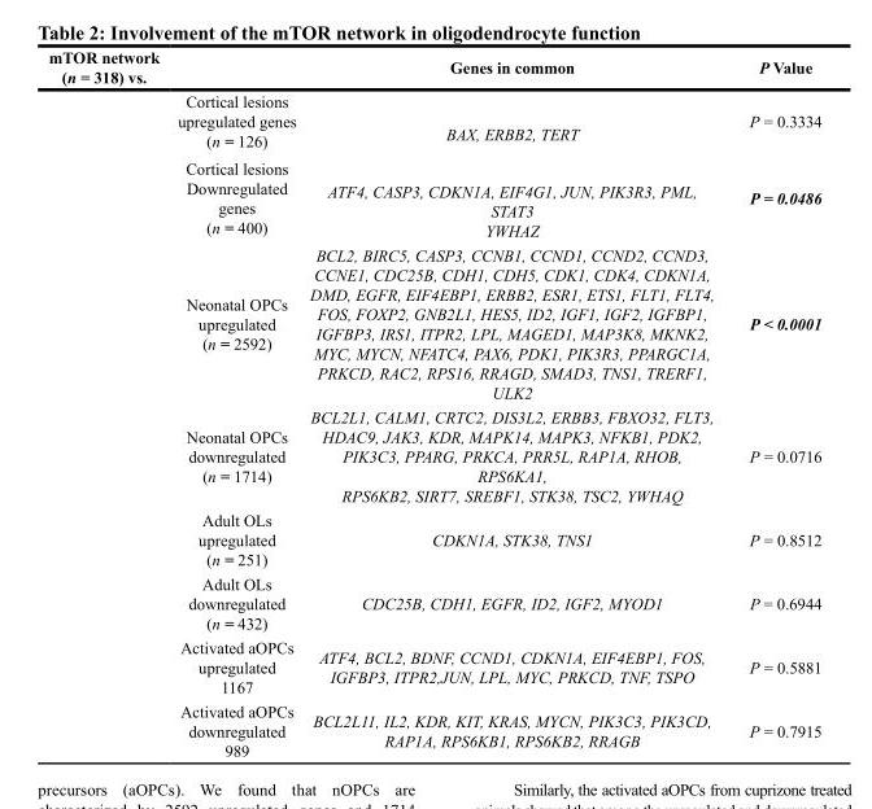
<table><thead><tr><td>mTOR network (n = 318) vs.</td><td></td><td>Genes in common</td><td>P Value</td></tr></thead><tbody><tr><td></td><td>Cortical lesions upregulated genes (n = 126)</td><td>BAX, ERBB2, TERT</td><td>P = 0.3334</td></tr><tr><td></td><td>Cortical lesions Downregulated genes (n = 400)</td><td>ATF4, CASP3, CDKN1A, EIF4G1, JUN, PIK3R3, PML, STAT3 YWHAZ</td><td>P = 0.0486</td></tr><tr><td></td><td>Neonatal OPCs upregulated (n = 2592)</td><td>BCL2, BIRC5, CASP3, CCNB1, CCND1, CCND2, CCND3, CCNE1, CDC25B, CDH1, CDH5, CDK1, CDK4, CDKN1A, DMD, EGFR, EIF4EBP1, ERBB2, ESR1, ETS1, FLT1, FLT4, FOS, FOXP2, GNB2L1, HES5, ID2, IGF1, IGF2, IGFBP1, IGFBP3, IRS1, ITPR2, LPL, MAGED1, MAP3K8, MKNK2, MYC, MYCN, NFATC4, PAX6, PDK1, PIK3R3, PPARGC1A, PRKCD, RAC2, RPS16, RRAGD, SMAD3, TNS1, TRERF1, ULK2</td><td>P &lt; 0.0001</td></tr><tr><td></td><td>Neonatal OPCs downregulated (n = 1714)</td><td>BCL2L1, CALM1, CRTC2, DIS3L2, ERBB3, FBXO32, FLT3, HDAC9, JAK3, KDR, MAPK14, MAPK3, NFKB1, PDK2, PIK3C3, PPARG, PRKCA, PRR5L, RAP1A, RHOB, RPS6KA1, RPS6KB2, SIRT7, SREBF1, STK38, TSC2, YWHAQ</td><td>P = 0.0716</td></tr><tr><td></td><td>Adult OLs upregulated (n = 251)</td><td>CDKN1A, STK38, TNS1</td><td>P = 0.8512</td></tr><tr><td></td><td>Adult OLs downregulated (n = 432)</td><td>CDC25B, CDH1, EGFR, ID2, IGF2, MYOD1</td><td>P = 0.6944</td></tr><tr><td></td><td>Activated aOPCs upregulated 1167</td><td>ATF4, BCL2, BDNF, CCND1, CDKN1A, EIF4EBP1, FOS, IGFBP3, ITPR2,JUN, LPL, MYC, PRKCD, TNF, TSPO</td><td>P = 0.5881</td></tr><tr><td></td><td>Activated aOPCs downregulated 989</td><td>BCL2L11, IL2, KDR, KIT, KRAS, MYCN, PIK3C3, PIK3CD, RAP1A, RPS6KB1, RPS6KB2, RRAGB</td><td>P = 0.7915</td></tr></tbody></table>